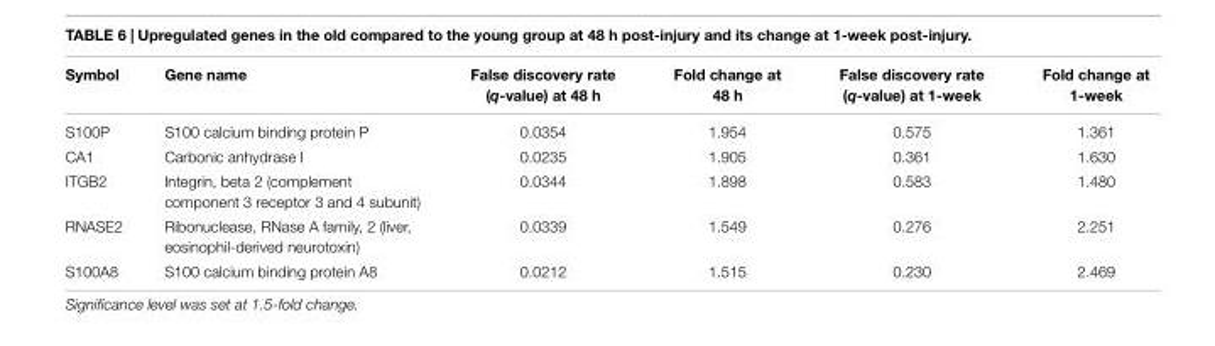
<table><thead><tr><td>Symbol</td><td>Gene name</td><td>False discovery rate (q-value) at 48 h</td><td>Fold change at 48 h</td><td>False discovery rate (q-value) at 1-week</td><td>Fold change at 1-week</td></tr></thead><tbody><tr><td>S100P</td><td>S100 calcium binding protein P</td><td>0.0354</td><td>1.954</td><td>0.575</td><td>1.361</td></tr><tr><td>CA1</td><td>Carbonic anhydrase I</td><td>0.0235</td><td>1.905</td><td>0.361</td><td>1.630</td></tr><tr><td>ITGB2</td><td>Integrin, beta 2 (complement component 3 receptor 3 and 4 subunit)</td><td>0.0344</td><td>1.898</td><td>0.583</td><td>1.480</td></tr><tr><td>RNASE2</td><td>Ribonuclease, RNase A family, 2 (liver, eosinophil-derived neurotoxin)</td><td>0.0339</td><td>1.549</td><td>0.276</td><td>2.251</td></tr><tr><td>S100A8</td><td>S100 calcium binding protein A8</td><td>0.0212</td><td>1.515</td><td>0.230</td><td>2.469</td></tr></tbody></table>